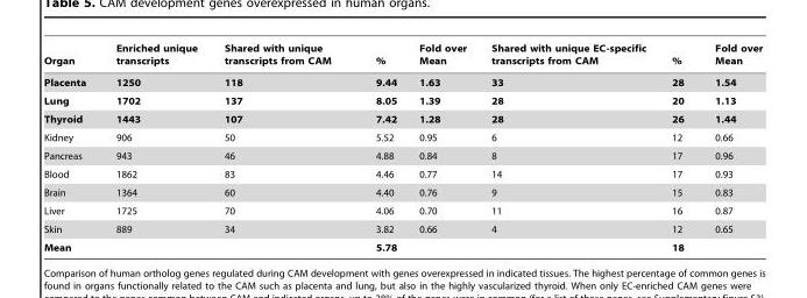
<table><thead><tr><td>Organ</td><td>Enriched unique transcripts</td><td>Shared with unique transcripts from CAM</td><td>%</td><td>Fold over Mean</td><td>Shared with unique EC-specific transcripts from CAM</td><td>%</td><td>Fold over Mean</td></tr></thead><tbody><tr><td>Placenta</td><td>1250</td><td>118</td><td>9.44</td><td>1.63</td><td>33</td><td>28</td><td>1.54</td></tr><tr><td>Lung</td><td>1702</td><td>137</td><td>8.05</td><td>1.39</td><td>28</td><td>20</td><td>1.13</td></tr><tr><td>Thyroid</td><td>1443</td><td>107</td><td>7.42</td><td>1.28</td><td>28</td><td>26</td><td>1.44</td></tr><tr><td>Kidney</td><td>906</td><td>50</td><td>5.52</td><td>0.95</td><td>6</td><td>12</td><td>0.66</td></tr><tr><td>Pancreas</td><td>943</td><td>46</td><td>4.88</td><td>0.84</td><td>8</td><td>17</td><td>0.96</td></tr><tr><td>Blood</td><td>1862</td><td>83</td><td>4.46</td><td>0.77</td><td>14</td><td>17</td><td>0.93</td></tr><tr><td>Brain</td><td>1364</td><td>60</td><td>4.40</td><td>0.76</td><td>9</td><td>15</td><td>0.83</td></tr><tr><td>Liver</td><td>1725</td><td>70</td><td>4.06</td><td>0.70</td><td>11</td><td>16</td><td>0.87</td></tr><tr><td>Skin</td><td>889</td><td>34</td><td>3.82</td><td>0.66</td><td>4</td><td>12</td><td>0.65</td></tr><tr><td>Mean</td><td></td><td></td><td>5.78</td><td></td><td></td><td>18</td><td></td></tr></tbody></table>